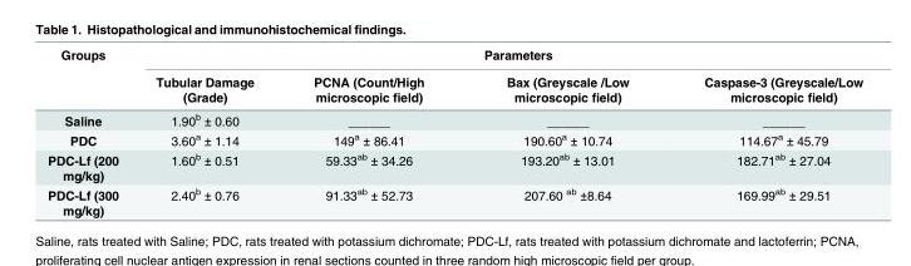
<table><thead><tr><td rowspan="2">Groups</td><td colspan="4">Parameters</td></tr><tr><td>Tubular Damage (Grade)</td><td>PCNA (Count/High microscopic field)</td><td>Bax (Greyscale /Low microscopic field)</td><td>Caspase-3 (Greyscale/Low microscopic field)</td></tr></thead><tbody><tr><td>Saline</td><td>1.90<sup>b</sup> ± 0.60</td><td>______</td><td>______</td><td>______</td></tr><tr><td>PDC</td><td>3.60<sup>a</sup> ± 1.14</td><td>149<sup>a</sup> ± 86.41</td><td>190.60<sup>a</sup> ± 10.74</td><td>114.67<sup>a</sup> ± 45.79</td></tr><tr><td>PDC-Lf (200 mg/kg)</td><td>1.60<sup>b</sup> ± 0.51</td><td>59.33<sup>ab</sup> ± 34.26</td><td>193.20<sup>ab</sup> ± 13.01</td><td>182.71<sup>ab</sup> ± 27.04</td></tr><tr><td>PDC-Lf (300 mg/kg)</td><td>2.40<sup>b</sup> ± 0.76</td><td>91.33<sup>ab</sup> ± 52.73</td><td>207.60 <sup>ab</sup> ±8.64</td><td>169.99<sup>ab</sup> ± 29.51</td></tr></tbody></table>